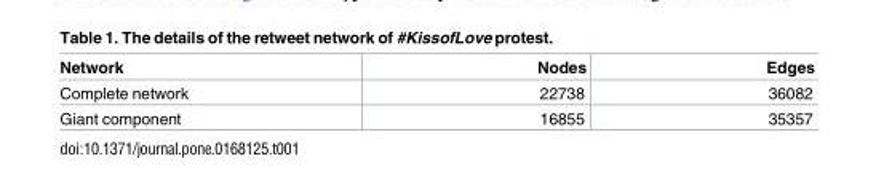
<table><thead><tr><td>Network</td><td>Nodes</td><td>Edges</td></tr></thead><tbody><tr><td>Complete network</td><td>22738</td><td>36082</td></tr><tr><td>Giant component</td><td>16855</td><td>35357</td></tr></tbody></table>